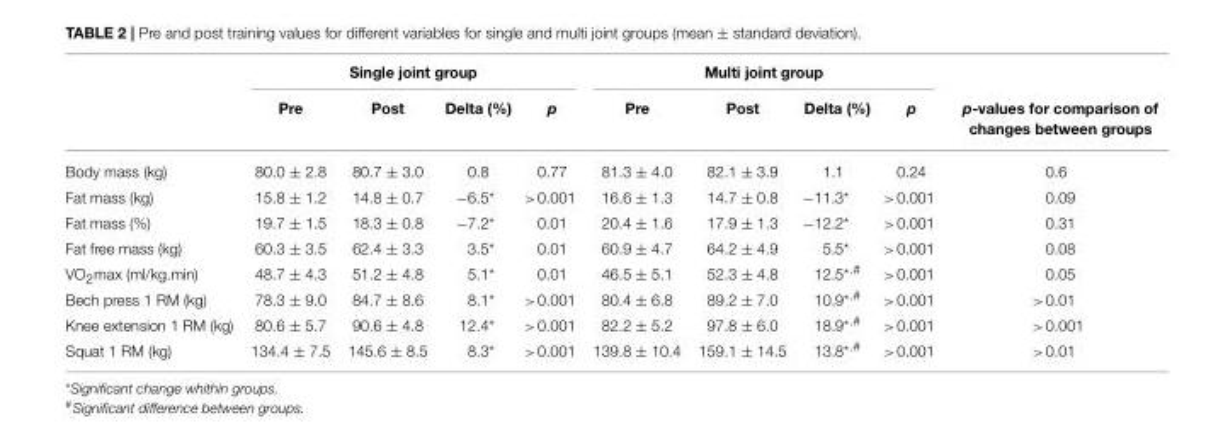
<table><thead><tr><td rowspan="2"></td><td colspan="4">Single joint group</td><td colspan="4">Multi joint group</td><td rowspan="2">p-values for comparison of changes between groups</td></tr><tr><td>Pre</td><td>Post</td><td>Delta (%)</td><td>p</td><td>Pre</td><td>Post</td><td>Delta (%)</td><td>p</td></tr></thead><tbody><tr><td>Body mass (kg)</td><td>80.0 ± 2.8</td><td>80.7 ± 3.0</td><td>0.8</td><td>0.77</td><td>81.3 ± 4.0</td><td>82.1 ± 3.9</td><td>1.1</td><td>0.24</td><td>0.6</td></tr><tr><td>Fat mass (kg)</td><td>15.8 ± 1.2</td><td>14.8 ± 0.7</td><td>−6.5*</td><td>&gt;0.001</td><td>16.6 ± 1.3</td><td>14.7 ± 0.8</td><td>−11.3*</td><td>&gt;0.001</td><td>0.09</td></tr><tr><td>Fat mass (%)</td><td>19.7 ± 1.5</td><td>18.3 ± 0.8</td><td>−7.2*</td><td>0.01</td><td>20.4 ± 1.6</td><td>17.9 ± 1.3</td><td>−12.2*</td><td>&gt;0.001</td><td>0.31</td></tr><tr><td>Fat free mass (kg)</td><td>60.3 ± 3.5</td><td>62.4 ± 3.3</td><td>3.5*</td><td>0.01</td><td>60.9 ± 4.7</td><td>64.2 ± 4.9</td><td>5.5*</td><td>&gt;0.001</td><td>0.08</td></tr><tr><td>VO<sub>2</sub>max (ml/kg.min)</td><td>48.7 ± 4.3</td><td>51.2 ± 4.8</td><td>5.1*</td><td>0.01</td><td>46.5 ± 5.1</td><td>52.3 ± 4.8</td><td>12.5<sup>*.#</sup></td><td>&gt;0.001</td><td>0.05</td></tr><tr><td>Bech press 1 RM (kg)</td><td>78.3 ± 9.0</td><td>84.7 ± 8.6</td><td>8.1*</td><td>&gt;0.001</td><td>80.4 ± 6.8</td><td>89.2 ± 7.0</td><td>10.9<sup>*.#</sup></td><td>&gt;0.001</td><td>&gt;0.01</td></tr><tr><td>Knee extension 1 RM (kg)</td><td>80.6 ± 5.7</td><td>90.6 ± 4.8</td><td>12.4*</td><td>&gt;0.001</td><td>82.2 ± 5.2</td><td>97.8 ± 6.0</td><td>18.9<sup>*.#</sup></td><td>&gt;0.001</td><td>&gt;0.001</td></tr><tr><td>Squat 1 RM (kg)</td><td>134.4 ± 7.5</td><td>145.6 ± 8.5</td><td>8.3*</td><td>&gt;0.001</td><td>139.8 ± 10.4</td><td>159.1 ± 14.5</td><td>13.8<sup>*.#</sup></td><td>&gt;0.001</td><td>&gt;0.01</td></tr></tbody></table>